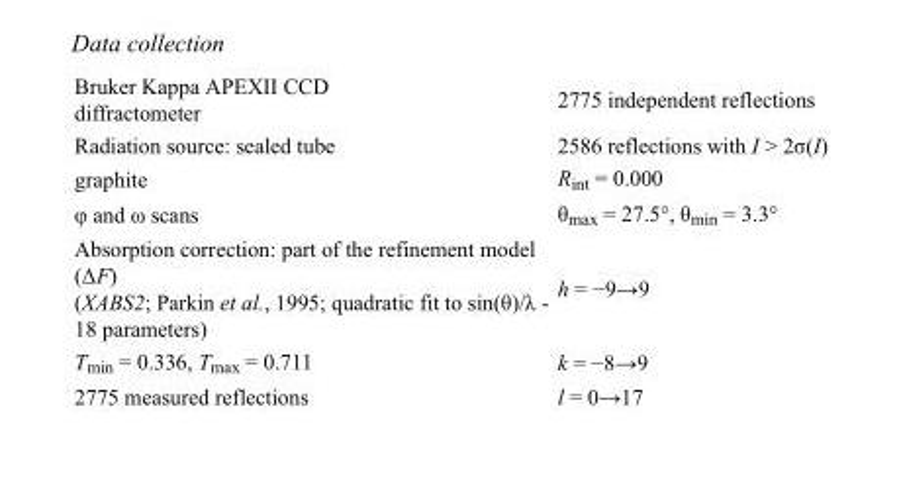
<table><tbody><tr><td>Bruker Kappa APEXII CCD diffractometer</td><td>2775 independent reflections</td></tr><tr><td>Radiation source: sealed tube</td><td>2586 reflections with I &gt; 2σ(I)</td></tr><tr><td>graphite</td><td>Rint = 0.000</td></tr><tr><td>φ and ω scans</td><td>θ<sub>max</sub> = 27.5°, θ<sub>min</sub> = 3.3°</td></tr><tr><td>Absorption correction: part of the refinement model (ΔF) (XABS2; Parkin et al., 1995; quadratic fit to sin(θ)/λ - 18 parameters)</td><td>h = −9→9</td></tr><tr><td>T<sub>min</sub> = 0.336, T<sub>max</sub> = 0.711</td><td>k = −8→9</td></tr><tr><td>2775 measured reflections</td><td>l = 0→17</td></tr></tbody></table>